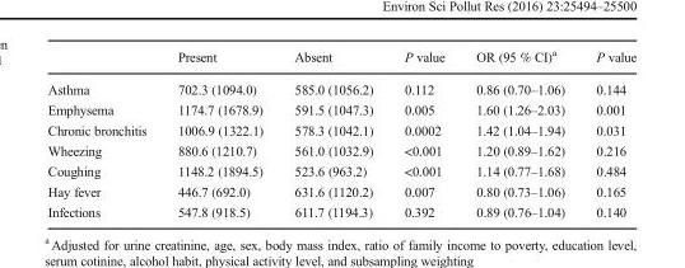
<table><thead><tr><td></td><td>Present</td><td>Absent</td><td>P value</td><td>OR (95 % CI)<sup>a</sup></td><td>P value</td></tr></thead><tbody><tr><td>Asthma</td><td>702.3 (1094.0)</td><td>585.0 (1056.2)</td><td>0.112</td><td>0.86 (0.70–1.06)</td><td>0.144</td></tr><tr><td>Emphysema</td><td>1174.7 (1678.9)</td><td>591.5 (1047.3)</td><td>0.005</td><td>1.60 (1.26–2.03)</td><td>0.001</td></tr><tr><td>Chronic bronchitis</td><td>1006.9 (1322.1)</td><td>578.3 (1042.1)</td><td>0.0002</td><td>1.42 (1.04–1.94)</td><td>0.031</td></tr><tr><td>Wheezing</td><td>880.6 (1210.7)</td><td>561.0 (1032.9)</td><td>&lt;0.001</td><td>1.20 (0.89–1.62)</td><td>0.216</td></tr><tr><td>Coughing</td><td>1148.2 (1894.5)</td><td>523.6 (963.2)</td><td>&lt;0.001</td><td>1.14 (0.77–1.68)</td><td>0.484</td></tr><tr><td>Hay fever</td><td>446.7 (692.0)</td><td>631.6 (1120.2)</td><td>0.007</td><td>0.80 (0.73–1.06)</td><td>0.165</td></tr><tr><td>Infections</td><td>547.8 (918.5)</td><td>611.7 (1194.3)</td><td>0.392</td><td>0.89 (0.76–1.04)</td><td>0.140</td></tr></tbody></table>